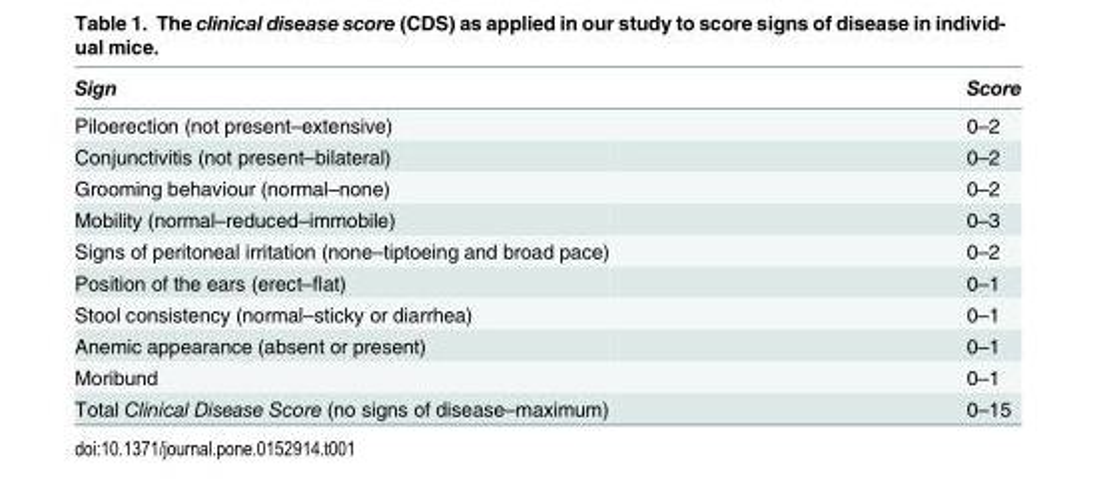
<table><thead><tr><td>Sign</td><td>Score</td></tr></thead><tbody><tr><td>Piloerection (not present–extensive)</td><td>0–2</td></tr><tr><td>Conjunctivitis (not present–bilateral)</td><td>0–2</td></tr><tr><td>Grooming behaviour (normal–none)</td><td>0–2</td></tr><tr><td>Mobility (normal–reduced–immobile)</td><td>0–3</td></tr><tr><td>Signs of peritoneal irritation (none–tiptoeing and broad pace)</td><td>0–2</td></tr><tr><td>Position of the ears (erect–flat)</td><td>0–1</td></tr><tr><td>Stool consistency (normal–sticky or diarrhea)</td><td>0–1</td></tr><tr><td>Anemic appearance (absent or present)</td><td>0–1</td></tr><tr><td>Moribund</td><td>0–1</td></tr><tr><td>Total Clinical Disease Score (no signs of disease–maximum)</td><td>0–15</td></tr></tbody></table>